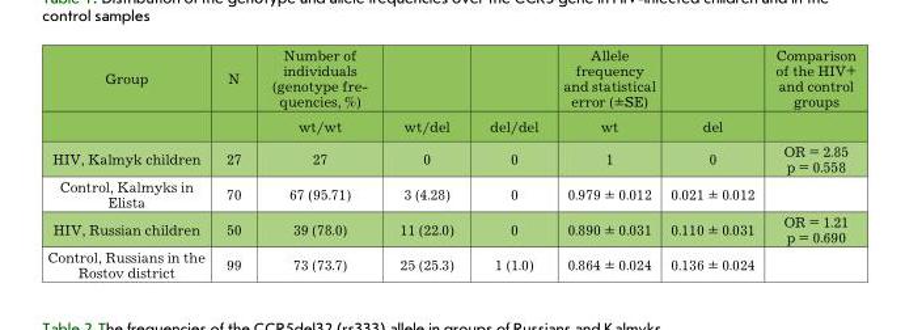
<table><thead><tr><td rowspan="2">Group</td><td rowspan="2">n</td><td rowspan="2">number of individuals (genotype fre- quencies, %) wt/wt</td><td rowspan="2">wt/del</td><td rowspan="2">del/del</td><td rowspan="2">Allele frequency and statistical error (±Se) wt</td><td rowspan="2">del</td><td rowspan="2">comparison of the HIV+ and control groups</td></tr><tr></tr></thead><tbody><tr><td>HIV, Kalmyk children</td><td>27</td><td>27</td><td>0</td><td>0</td><td>1</td><td>0</td><td>Or = 2.85 p = 0.558</td></tr><tr><td>control, Kalmyks in elista</td><td>70</td><td>67 (95.71)</td><td>3 (4.28)</td><td>0</td><td>0.979 ± 0.012</td><td>0.021 ± 0.012</td><td></td></tr><tr><td>HIV, russian children</td><td>50</td><td>39 (78.0)</td><td>11 (22.0)</td><td>0</td><td>0.890 ± 0.031</td><td>0.110 ± 0.031</td><td>Or = 1.21 p = 0.690</td></tr><tr><td>control, russians in the rostov district</td><td>99</td><td>73 (73.7)</td><td>25 (25.3)</td><td>1 (1.0)</td><td>0.864 ± 0.024</td><td>0.136 ± 0.024</td><td></td></tr></tbody></table>